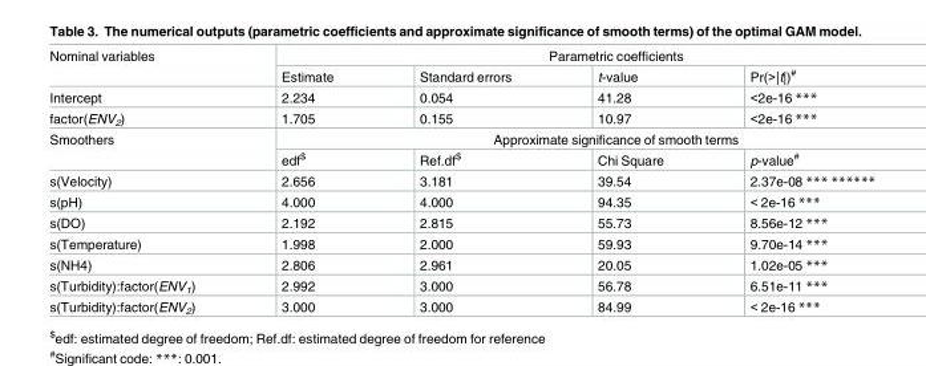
<table><tbody><tr><td rowspan="2">Nominal variables</td><td colspan="4">Parametric coefficients</td></tr><tr><td>Estimate</td><td>Standard errors</td><td>t-value</td><td>Pr(&gt;|t|)<sup>#</sup></td></tr><tr><td>Intercept</td><td>2.234</td><td>0.054</td><td>41.28</td><td>&lt;2e-16 ***</td></tr><tr><td>factor(ENV<sub>2</sub>)</td><td>1.705</td><td>0.155</td><td>10.97</td><td>&lt;2e-16 ***</td></tr><tr><td rowspan="2">Smoothers</td><td colspan="4">Approximate significance of smooth terms</td></tr><tr><td>edf<sup>$</sup></td><td>Ref.df<sup>$</sup></td><td>Chi Square</td><td>p-value<sup>#</sup></td></tr><tr><td>s(Velocity)</td><td>2.656</td><td>3.181</td><td>39.54</td><td>2.37e-08 *** ******</td></tr><tr><td>s(pH)</td><td>4.000</td><td>4.000</td><td>94.35</td><td>&lt; 2e-16 ***</td></tr><tr><td>s(DO)</td><td>2.192</td><td>2.815</td><td>55.73</td><td>8.56e-12 ***</td></tr><tr><td>s(Temperature)</td><td>1.998</td><td>2.000</td><td>59.93</td><td>9.70e-14 ***</td></tr><tr><td>s(NH4)</td><td>2.806</td><td>2.961</td><td>20.05</td><td>1.02e-05 ***</td></tr><tr><td>s(Turbidity):factor(ENV<sub>1</sub>)</td><td>2.992</td><td>3.000</td><td>56.78</td><td>6.51e-11 ***</td></tr><tr><td>s(Turbidity):factor(ENV<sub>2</sub>)</td><td>3.000</td><td>3.000</td><td>84.99</td><td>&lt; 2e-16 ***</td></tr></tbody></table>